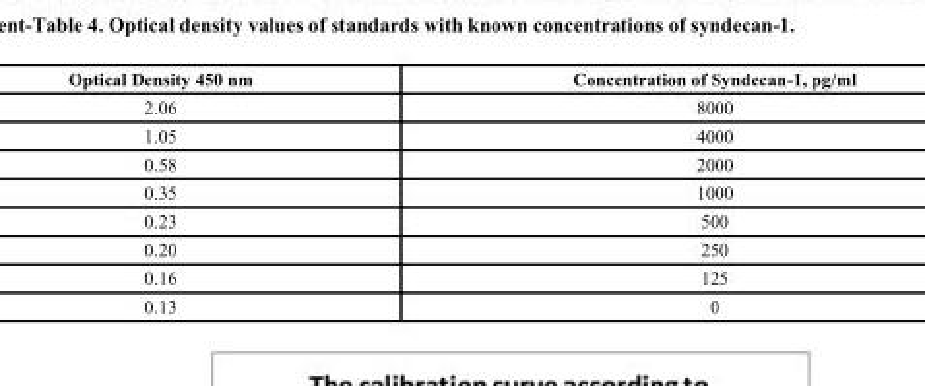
<table><thead><tr><td>Optical Density 450 nm</td><td>Concentration of Syndecan-1, pg/ml</td></tr></thead><tbody><tr><td>2.06</td><td>8000</td></tr><tr><td>1.05</td><td>4000</td></tr><tr><td>0.58</td><td>2000</td></tr><tr><td>0.35</td><td>1000</td></tr><tr><td>0.23</td><td>500</td></tr><tr><td>0.20</td><td>250</td></tr><tr><td>0.16</td><td>125</td></tr><tr><td>0.13</td><td>0</td></tr></tbody></table>